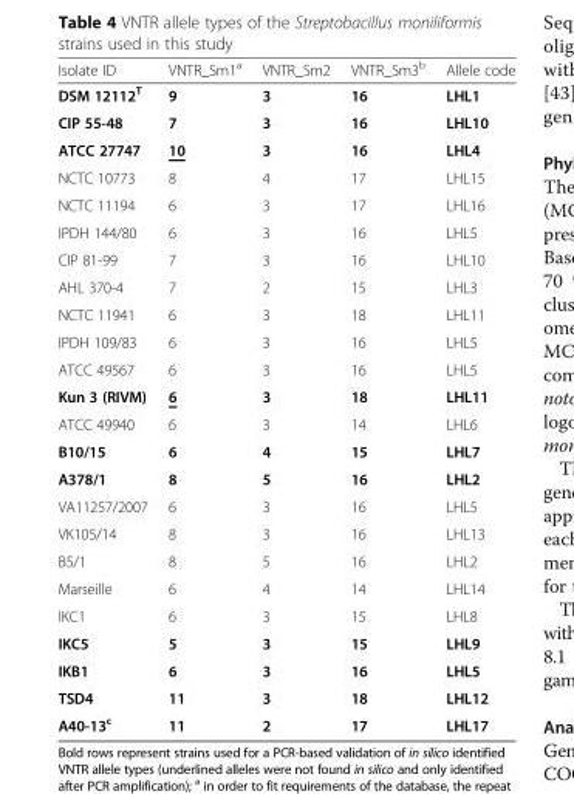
<table><thead><tr><td>Isolate ID</td><td>VNTR_Sm1<sup>a</sup></td><td>VNTR_Sm2</td><td>VNTR_Sm3<sup>b</sup></td><td>Allele code</td></tr></thead><tbody><tr><td>DSM 12112<sup>T</sup></td><td>9</td><td>3</td><td>16</td><td>LHL1</td></tr><tr><td>CIP 55-48</td><td>7</td><td>3</td><td>16</td><td>LHL10</td></tr><tr><td>ATCC 27747</td><td>10</td><td>3</td><td>16</td><td>LHL4</td></tr><tr><td>NCTC 10773</td><td>8</td><td>4</td><td>17</td><td>LHL15</td></tr><tr><td>NCTC 11194</td><td>6</td><td>3</td><td>17</td><td>LHL16</td></tr><tr><td>IPDH 144/80</td><td>6</td><td>3</td><td>16</td><td>LHL5</td></tr><tr><td>CIP 81-99</td><td>7</td><td>3</td><td>16</td><td>LHL10</td></tr><tr><td>AHL 370-4</td><td>7</td><td>2</td><td>15</td><td>LHL3</td></tr><tr><td>NCTC 11941</td><td>6</td><td>3</td><td>18</td><td>LHL11</td></tr><tr><td>IPDH 109/83</td><td>6</td><td>3</td><td>16</td><td>LHL5</td></tr><tr><td>ATCC 49567</td><td>6</td><td>3</td><td>16</td><td>LHL5</td></tr><tr><td>Kun 3 (RIVM)</td><td>6</td><td>3</td><td>18</td><td>LHL11</td></tr><tr><td>ATCC 49940</td><td>6</td><td>3</td><td>14</td><td>LHL6</td></tr><tr><td>B10/15</td><td>6</td><td>4</td><td>15</td><td>LHL7</td></tr><tr><td>A378/1</td><td>8</td><td>5</td><td>16</td><td>LHL2</td></tr><tr><td>VA11257/2007</td><td>6</td><td>3</td><td>16</td><td>LHL5</td></tr><tr><td>VK105/14</td><td>8</td><td>3</td><td>16</td><td>LHL13</td></tr><tr><td>B5/1</td><td>8</td><td>5</td><td>16</td><td>LHL2</td></tr><tr><td>Marseille</td><td>6</td><td>4</td><td>14</td><td>LHL14</td></tr><tr><td>IKC1</td><td>6</td><td>3</td><td>15</td><td>LHL8</td></tr><tr><td>IKC5</td><td>5</td><td>3</td><td>15</td><td>LHL9</td></tr><tr><td>IKB1</td><td>6</td><td>3</td><td>16</td><td>LHL5</td></tr><tr><td>TSD4</td><td>11</td><td>3</td><td>18</td><td>LHL12</td></tr><tr><td>A40-13<sup>c</sup></td><td>11</td><td>2</td><td>17</td><td>LHL17</td></tr></tbody></table>